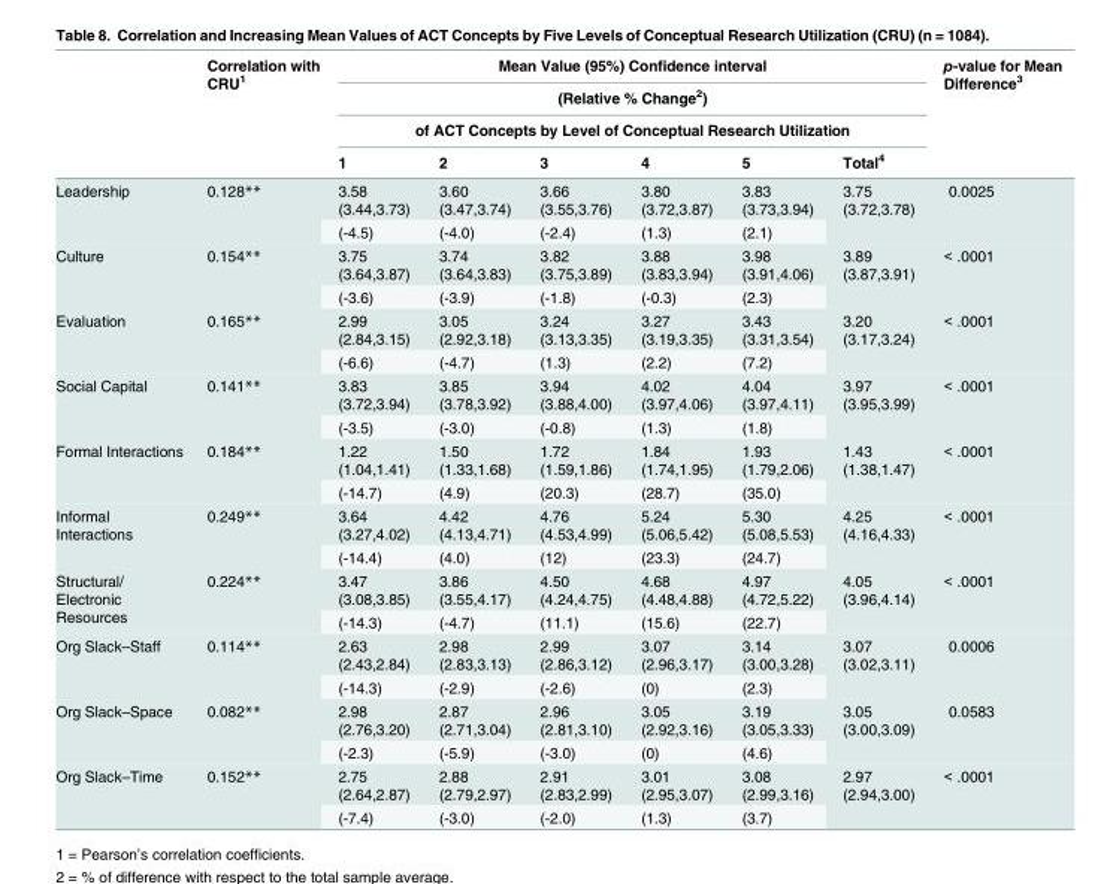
<table><thead><tr><td rowspan="4"></td><td rowspan="4">Correlation with CRU<sup>1</sup></td><td rowspan="3" colspan="6">Mean Value (95%) Confidence interval (Relative % Change<sup>2</sup>) of ACT Concepts by Level of Conceptual Research Utilization</td><td rowspan="4">p-value for Mean Difference<sup>3</sup></td></tr><tr></tr><tr></tr><tr><td>1</td><td>2</td><td>3</td><td>4</td><td>5</td><td>Total<sup>4</sup></td></tr></thead><tbody><tr><td rowspan="2">Leadership</td><td rowspan="2">0.128**</td><td>3.58 (3.44,3.73)</td><td>3.60 (3.47,3.74)</td><td>3.66 (3.55,3.76)</td><td>3.80 (3.72,3.87)</td><td>3.83 (3.73,3.94)</td><td rowspan="2">3.75 (3.72,3.78)</td><td rowspan="2">0.0025</td></tr><tr><td>(-4.5)</td><td>(-4.0)</td><td>(-2.4)</td><td>(1.3)</td><td>(2.1)</td></tr><tr><td rowspan="2">Culture</td><td rowspan="2">0.154**</td><td>3.75 (3.64,3.87)</td><td>3.74 (3.64,3.83)</td><td>3.82 (3.75,3.89)</td><td>3.88 (3.83,3.94)</td><td>3.98 (3.91,4.06)</td><td rowspan="2">3.89 (3.87,3.91)</td><td rowspan="2">&lt; .0001</td></tr><tr><td>(-3.6)</td><td>(-3.9)</td><td>(-1.8)</td><td>(-0.3)</td><td>(2.3)</td></tr><tr><td rowspan="2">Evaluation</td><td rowspan="2">0.165**</td><td>2.99 (2.84,3.15)</td><td>3.05 (2.92,3.18)</td><td>3.24 (3.13,3.35)</td><td>3.27 (3.19,3.35)</td><td>3.43 (3.31,3.54)</td><td rowspan="2">3.20 (3.17,3.24)</td><td rowspan="2">&lt; .0001</td></tr><tr><td>(-6.6)</td><td>(-4.7)</td><td>(1.3)</td><td>(2.2)</td><td>(7.2)</td></tr><tr><td rowspan="2">Social Capital</td><td rowspan="2">0.141**</td><td>3.83 (3.72,3.94)</td><td>3.85 (3.78,3.92)</td><td>3.94 (3.88,4.00)</td><td>4.02 (3.97,4.06)</td><td>4.04 (3.97,4.11)</td><td rowspan="2">3.97 (3.95,3.99)</td><td rowspan="2">&lt; .0001</td></tr><tr><td>(-3.5)</td><td>(-3.0)</td><td>(-0.8)</td><td>(1.3)</td><td>(1.8)</td></tr><tr><td rowspan="2">Formal Interactions</td><td rowspan="2">0.184**</td><td>1.22 (1.04,1.41)</td><td>1.50 (1.33,1.68)</td><td>1.72 (1.59,1.86)</td><td>1.84 (1.74,1.95)</td><td>1.93 (1.79,2.06)</td><td rowspan="2">1.43 (1.38,1.47)</td><td rowspan="2">&lt; .0001</td></tr><tr><td>(-14.7)</td><td>(4.9)</td><td>(20.3)</td><td>(28.7)</td><td>(35.0)</td></tr><tr><td rowspan="2">Informal Interactions</td><td rowspan="2">0.249**</td><td>3.64 (3.27,4.02)</td><td>4.42 (4.13,4.71)</td><td>4.76 (4.53,4.99)</td><td>5.24 (5.06,5.42)</td><td>5.30 (5.08,5.53)</td><td rowspan="2">4.25 (4.16,4.33)</td><td rowspan="2">&lt; .0001</td></tr><tr><td>(-14.4)</td><td>(4.0)</td><td>(12)</td><td>(23.3)</td><td>(24.7)</td></tr><tr><td rowspan="2">Structural/ Electronic Resources</td><td rowspan="2">0.224**</td><td>3.47 (3.08,3.85)</td><td>3.86 (3.55,4.17)</td><td>4.50 (4.24,4.75)</td><td>4.68 (4.48,4.88)</td><td>4.97 (4.72,5.22)</td><td rowspan="2">4.05 (3.96,4.14)</td><td rowspan="2">&lt; .0001</td></tr><tr><td>(-14.3)</td><td>(-4.7)</td><td>(11.1)</td><td>(15.6)</td><td>(22.7)</td></tr><tr><td rowspan="2">Org Slack–Staff</td><td rowspan="2">0.114**</td><td>2.63 (2.43,2.84)</td><td>2.98 (2.83,3.13)</td><td>2.99 (2.86,3.12)</td><td>3.07 (2.96,3.17)</td><td>3.14 (3.00,3.28)</td><td rowspan="2">3.07 (3.02,3.11)</td><td rowspan="2">0.0006</td></tr><tr><td>(-14.3)</td><td>(-2.9)</td><td>(-2.6)</td><td>(0)</td><td>(2.3)</td></tr><tr><td rowspan="2">Org Slack–Space</td><td rowspan="2">0.082**</td><td>2.98 (2.76,3.20)</td><td>2.87 (2.71,3.04)</td><td>2.96 (2.81,3.10)</td><td>3.05 (2.92,3.16)</td><td>3.19 (3.05,3.33)</td><td rowspan="2">3.05 (3.00,3.09)</td><td rowspan="2">0.0583</td></tr><tr><td>(-2.3)</td><td>(-5.9)</td><td>(-3.0)</td><td>(0)</td><td>(4.6)</td></tr><tr><td rowspan="2">Org Slack–Time</td><td rowspan="2">0.152**</td><td>2.75 (2.64,2.87)</td><td>2.88 (2.79,2.97)</td><td>2.91 (2.83,2.99)</td><td>3.01 (2.95,3.07)</td><td>3.08 (2.99,3.16)</td><td rowspan="2">2.97 (2.94,3.00)</td><td rowspan="2">&lt; .0001</td></tr><tr><td>(-7.4)</td><td>(-3.0)</td><td>(-2.0)</td><td>(1.3)</td><td>(3.7)</td></tr></tbody></table>